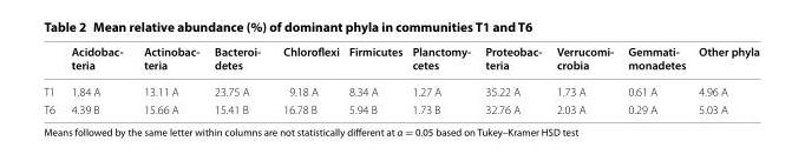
<table><thead><tr><td></td><td>Acidobac‑ teria</td><td>Actinobac‑ teria</td><td>Bacteroi‑ detes</td><td>Chloroflexi</td><td>Firmicutes</td><td>Planctomy‑ cetes</td><td>Proteobac‑ teria</td><td>Verrucomi‑ crobia</td><td>Gemmati‑ monadetes</td><td>Other phyla</td></tr></thead><tbody><tr><td>T1</td><td>1.84 A</td><td>13.11 A</td><td>23.75 A</td><td>9.18 A</td><td>8.34 A</td><td>1.27 A</td><td>35.22 A</td><td>1.73 A</td><td>0.61 A</td><td>4.96 A</td></tr><tr><td>T6</td><td>4.39 B</td><td>15.66 A</td><td>15.41 B</td><td>16.78 B</td><td>5.94 B</td><td>1.73 B</td><td>32.76 A</td><td>2.03 A</td><td>0.29 A</td><td>5.03 A</td></tr></tbody></table>